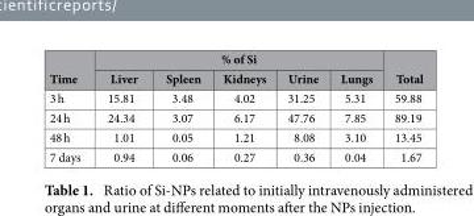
<table><thead><tr><td rowspan="2">Time</td><td colspan="5">% of Si</td><td rowspan="2">Total</td></tr><tr><td>Liver</td><td>Spleen</td><td>Kidneys</td><td>Urine</td><td>Lungs</td></tr></thead><tbody><tr><td>3 h</td><td>15.81</td><td>3.48</td><td>4.02</td><td>31.25</td><td>5.31</td><td>59.88</td></tr><tr><td>24 h</td><td>24.34</td><td>3.07</td><td>6.17</td><td>47.76</td><td>7.85</td><td>89.19</td></tr><tr><td>48 h</td><td>1.01</td><td>0.05</td><td>1.21</td><td>8.08</td><td>3.10</td><td>13.45</td></tr><tr><td>7 days</td><td>0.94</td><td>0.06</td><td>0.27</td><td>0.36</td><td>0.04</td><td>1.67</td></tr></tbody></table>